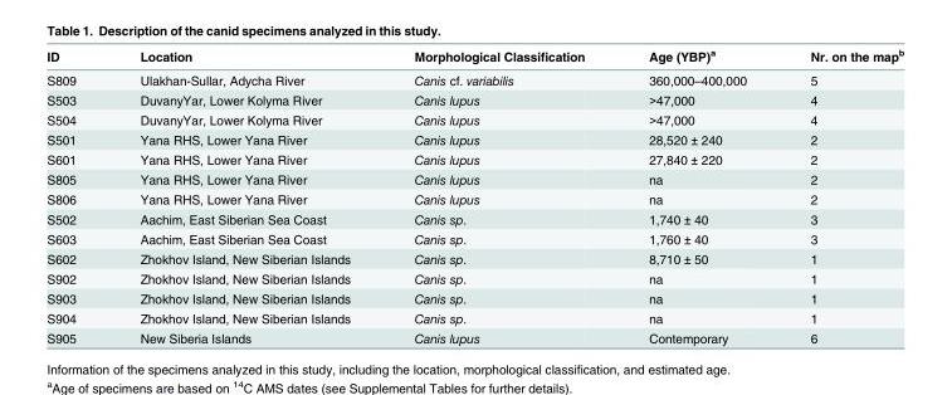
<table><thead><tr><td>ID</td><td>Location</td><td>Morphological Classification</td><td>Age (YBP)<sup>a</sup></td><td>Nr. on the map<sup>b</sup></td></tr></thead><tbody><tr><td>S809</td><td>Ulakhan-Sullar, Adycha River</td><td>Canis cf. variabilis</td><td>360,000–400,000</td><td>5</td></tr><tr><td>S503</td><td>DuvanyYar, Lower Kolyma River</td><td>Canis lupus</td><td>&gt;47,000</td><td>4</td></tr><tr><td>S504</td><td>DuvanyYar, Lower Kolyma River</td><td>Canis lupus</td><td>&gt;47,000</td><td>4</td></tr><tr><td>S501</td><td>Yana RHS, Lower Yana River</td><td>Canis lupus</td><td>28,520 ± 240</td><td>2</td></tr><tr><td>S601</td><td>Yana RHS, Lower Yana River</td><td>Canis lupus</td><td>27,840 ± 220</td><td>2</td></tr><tr><td>S805</td><td>Yana RHS, Lower Yana River</td><td>Canis lupus</td><td>na</td><td>2</td></tr><tr><td>S806</td><td>Yana RHS, Lower Yana River</td><td>Canis lupus</td><td>na</td><td>2</td></tr><tr><td>S502</td><td>Aachim, East Siberian Sea Coast</td><td>Canis sp.</td><td>1,740 ± 40</td><td>3</td></tr><tr><td>S603</td><td>Aachim, East Siberian Sea Coast</td><td>Canis sp.</td><td>1,760 ± 40</td><td>3</td></tr><tr><td>S602</td><td>Zhokhov Island, New Siberian Islands</td><td>Canis sp.</td><td>8,710 ± 50</td><td>1</td></tr><tr><td>S902</td><td>Zhokhov Island, New Siberian Islands</td><td>Canis sp.</td><td>na</td><td>1</td></tr><tr><td>S903</td><td>Zhokhov Island, New Siberian Islands</td><td>Canis sp.</td><td>na</td><td>1</td></tr><tr><td>S904</td><td>Zhokhov Island, New Siberian Islands</td><td>Canis sp.</td><td>na</td><td>1</td></tr><tr><td>S905</td><td>New Siberia Islands</td><td>Canis lupus</td><td>Contemporary</td><td>6</td></tr></tbody></table>